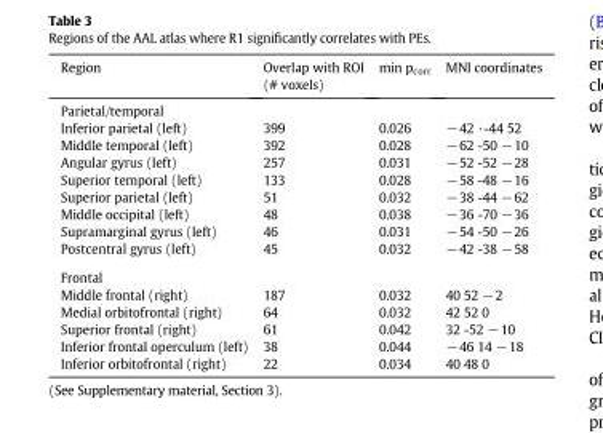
<table><thead><tr><td>Region</td><td>Overlap with ROI (# voxels)</td><td>min p<sub>corr</sub></td><td>MNI coordinates</td></tr></thead><tbody><tr><td colspan="4">Parietal/temporal</td></tr><tr><td>Inferior parietal (left)</td><td>399</td><td>0.026</td><td>−42 ·-44 52</td></tr><tr><td>Middle temporal (left)</td><td>392</td><td>0.028</td><td>−62 -50 −10</td></tr><tr><td>Angular gyrus (left)</td><td>257</td><td>0.031</td><td>−52 -52 −28</td></tr><tr><td>Superior temporal (left)</td><td>133</td><td>0.028</td><td>−58 -48 −16</td></tr><tr><td>Superior parietal (left)</td><td>51</td><td>0.032</td><td>−38 -44 −62</td></tr><tr><td>Middle occipital (left)</td><td>48</td><td>0.038</td><td>−36 -70 −36</td></tr><tr><td>Supramarginal gyrus (left)</td><td>46</td><td>0.031</td><td>−54 -50 −26</td></tr><tr><td>Postcentral gyrus (left)</td><td>45</td><td>0.032</td><td>−42 -38 −58</td></tr><tr><td colspan="4">Frontal</td></tr><tr><td>Middle frontal (right)</td><td>187</td><td>0.032</td><td>40 52 −2</td></tr><tr><td>Medial orbitofrontal (right)</td><td>64</td><td>0.032</td><td>42 52 0</td></tr><tr><td>Superior frontal (right)</td><td>61</td><td>0.042</td><td>32 -52 −10</td></tr><tr><td>Inferior frontal operculum (left)</td><td>38</td><td>0.044</td><td>−46 14 −18</td></tr><tr><td>Inferior orbitofrontal (right)</td><td>22</td><td>0.034</td><td>40 48 0</td></tr></tbody></table>